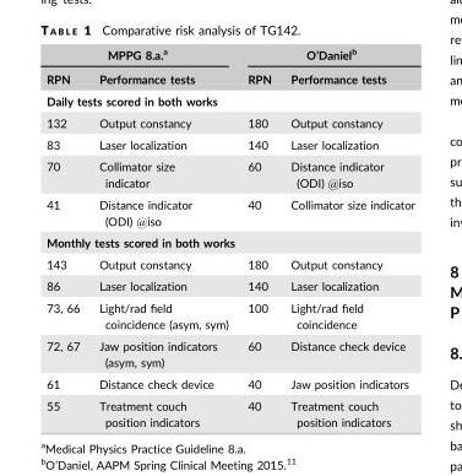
<table><thead><tr><td colspan="2">MPPG 8.a.<sup>a</sup></td><td colspan="2">O’Daniel<sup>b</sup></td></tr><tr><td>RPN</td><td>Performance tests</td><td>RPN</td><td>Performance tests</td></tr></thead><tbody><tr><td colspan="4">Daily tests scored in both works</td></tr><tr><td>132</td><td>Output constancy</td><td>180</td><td>Output constancy</td></tr><tr><td>83</td><td>Laser localization</td><td>140</td><td>Laser localization</td></tr><tr><td>70</td><td>Collimator size indicator</td><td>60</td><td>Distance indicator (ODI) @iso</td></tr><tr><td>41</td><td>Distance indicator (ODI) @iso</td><td>40</td><td>Collimator size indicator</td></tr><tr><td colspan="4">Monthly tests scored in both works</td></tr><tr><td>143</td><td>Output constancy</td><td>180</td><td>Output constancy</td></tr><tr><td>86</td><td>Laser localization</td><td>140</td><td>Laser localization</td></tr><tr><td>73, 66</td><td>Light/rad field coincidence (asym, sym)</td><td>100</td><td>Light/rad field coincidence</td></tr><tr><td>72, 67</td><td>Jaw position indicators (asym, sym)</td><td>60</td><td>Distance check device</td></tr><tr><td>61</td><td>Distance check device</td><td>40</td><td>Jaw position indicators</td></tr><tr><td>55</td><td>Treatment couch position indicators</td><td>40</td><td>Treatment couch position indicators</td></tr></tbody></table>